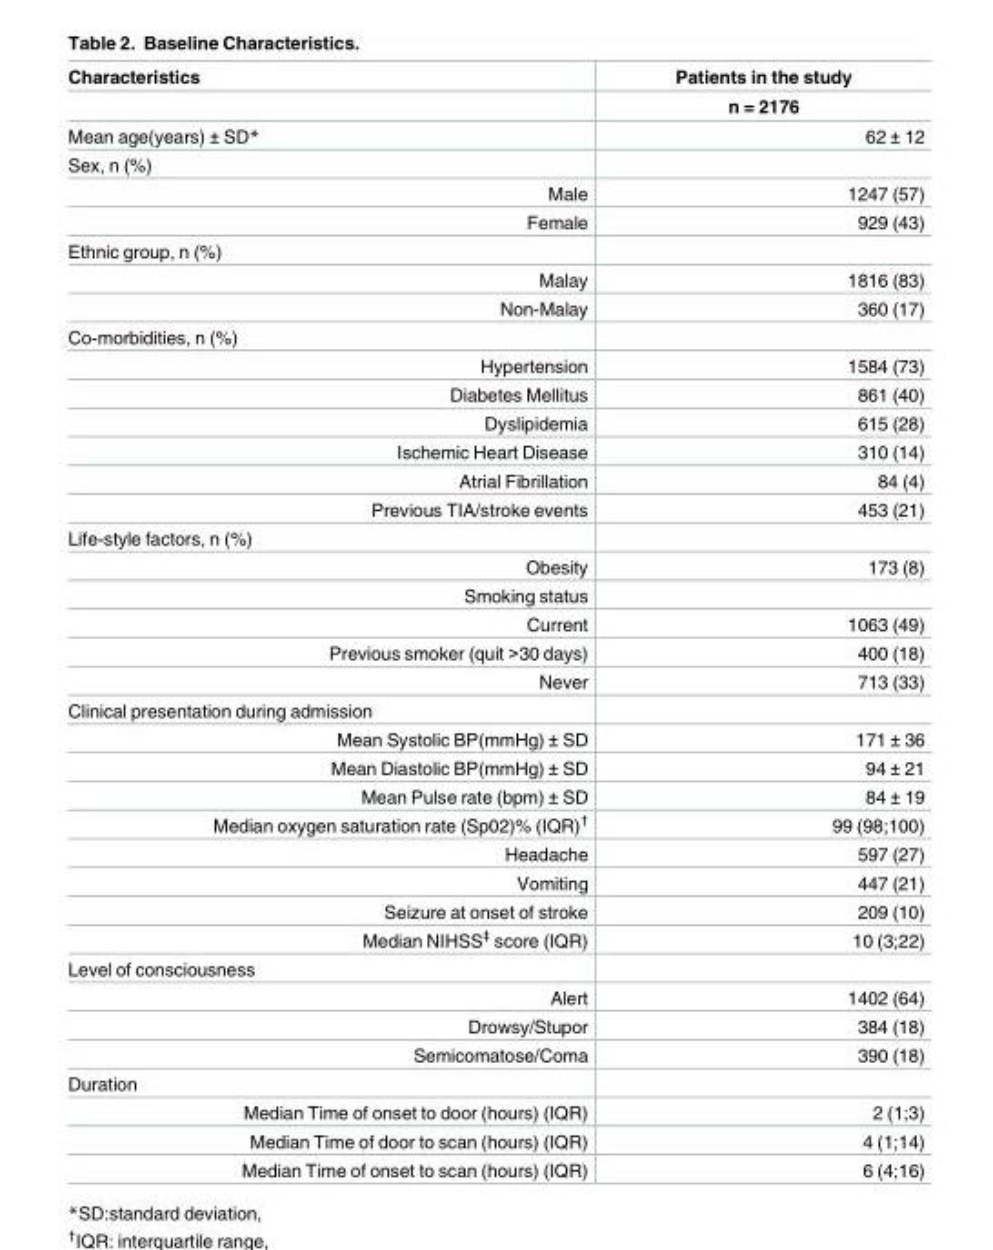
<table><thead><tr><td rowspan="2">Characteristics</td><td rowspan="2">Patients in the study n = 2176</td></tr><tr></tr></thead><tbody><tr><td>Mean age(years) ± SD*</td><td>62 ± 12</td></tr><tr><td colspan="2">Sex, n (%)</td></tr><tr><td>Male</td><td>1247 (57)</td></tr><tr><td>Female</td><td>929 (43)</td></tr><tr><td colspan="2">Ethnic group, n (%)</td></tr><tr><td>Malay</td><td>1816 (83)</td></tr><tr><td>Non-Malay</td><td>360 (17)</td></tr><tr><td colspan="2">Co-morbidities, n (%)</td></tr><tr><td>Hypertension</td><td>1584 (73)</td></tr><tr><td>Diabetes Mellitus</td><td>861 (40)</td></tr><tr><td>Dyslipidemia</td><td>615 (28)</td></tr><tr><td>Ischemic Heart Disease</td><td>310 (14)</td></tr><tr><td>Atrial Fibrillation</td><td>84 (4)</td></tr><tr><td>Previous TIA/stroke events</td><td>453 (21)</td></tr><tr><td colspan="2">Life-style factors, n (%)</td></tr><tr><td>Obesity</td><td>173 (8)</td></tr><tr><td colspan="2">Smoking status</td></tr><tr><td>Current</td><td>1063 (49)</td></tr><tr><td>Previous smoker (quit &gt;30 days)</td><td>400 (18)</td></tr><tr><td>Never</td><td>713 (33)</td></tr><tr><td colspan="2">Clinical presentation during admission</td></tr><tr><td>Mean Systolic BP(mmHg) ± SD</td><td>171 ± 36</td></tr><tr><td>Mean Diastolic BP(mmHg) ± SD</td><td>94 ± 21</td></tr><tr><td>Mean Pulse rate (bpm) ± SD</td><td>84 ± 19</td></tr><tr><td>Median oxygen saturation rate (Sp02)% (IQR)<sup>†</sup></td><td>99 (98;100)</td></tr><tr><td>Headache</td><td>597 (27)</td></tr><tr><td>Vomiting</td><td>447 (21)</td></tr><tr><td>Seizure at onset of stroke</td><td>209 (10)</td></tr><tr><td>Median NIHSS<sup>‡</sup> score (IQR)</td><td>10 (3;22)</td></tr><tr><td colspan="2">Level of consciousness</td></tr><tr><td>Alert</td><td>1402 (64)</td></tr><tr><td>Drowsy/Stupor</td><td>384 (18)</td></tr><tr><td>Semicomatose/Coma</td><td>390 (18)</td></tr><tr><td colspan="2">Duration</td></tr><tr><td>Median Time of onset to door (hours) (IQR)</td><td>2 (1;3)</td></tr><tr><td>Median Time of door to scan (hours) (IQR)</td><td>4 (1;14)</td></tr><tr><td>Median Time of onset to scan (hours) (IQR)</td><td>6 (4;16)</td></tr></tbody></table>